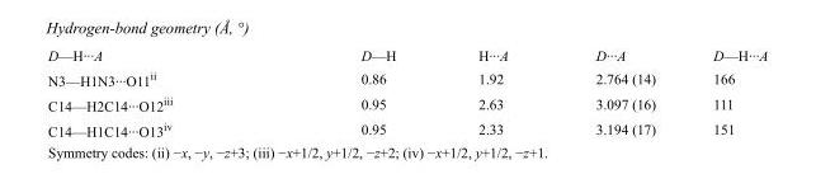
<table><tbody><tr><td>D—H···A</td><td>D—H</td><td>H···A</td><td>D···A</td><td>D—H···A</td></tr><tr><td>N3—H1N3···O11<sup>ii</sup></td><td>0.86</td><td>1.92</td><td>2.764 (14)</td><td>166</td></tr><tr><td>C14—H2C14···O12<sup>iii</sup></td><td>0.95</td><td>2.63</td><td>3.097 (16)</td><td>111</td></tr><tr><td>C14—H1C14···O13<sup>iv</sup></td><td>0.95</td><td>2.33</td><td>3.194 (17)</td><td>151</td></tr></tbody></table>